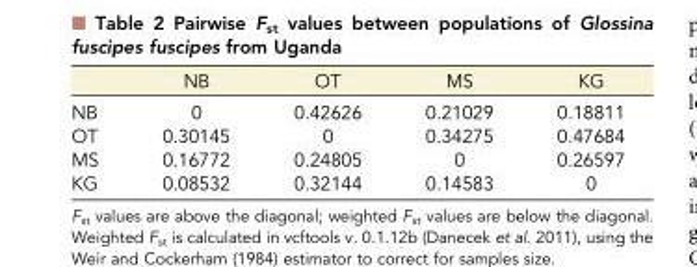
<table><thead><tr><td></td><td>NB</td><td>OT</td><td>MS</td><td>KG</td></tr></thead><tbody><tr><td>NB</td><td>0</td><td>0.42626</td><td>0.21029</td><td>0.18811</td></tr><tr><td>OT</td><td>0.30145</td><td>0</td><td>0.34275</td><td>0.47684</td></tr><tr><td>MS</td><td>0.16772</td><td>0.24805</td><td>0</td><td>0.26597</td></tr><tr><td>KG</td><td>0.08532</td><td>0.32144</td><td>0.14583</td><td>0</td></tr></tbody></table>